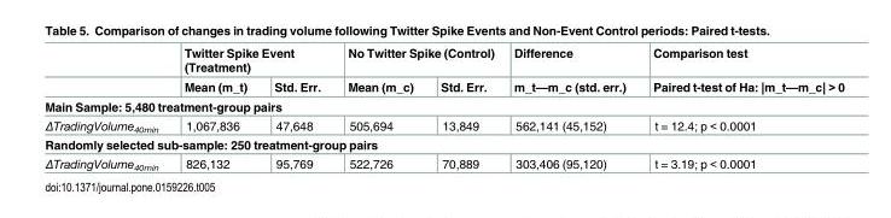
<table><thead><tr><td rowspan="2"></td><td colspan="2">Twitter Spike Event (Treatment)</td><td colspan="2">No Twitter Spike (Control)</td><td rowspan="2">Difference m_t—m_c (std. err.)</td><td rowspan="2">Comparison test Paired t-test of Ha: |m_t—m_c| &gt; 0</td></tr><tr><td>Mean (m_t)</td><td>Std. Err.</td><td>Mean (m_c)</td><td>Std. Err.</td></tr></thead><tbody><tr><td colspan="7">Main Sample: 5,480 treatment-group pairs</td></tr><tr><td>ΔTradingVolume<sub>40min</sub></td><td>1,067,836</td><td>47,648</td><td>505,694</td><td>13,849</td><td>562,141 (45,152)</td><td>t = 12.4; p &lt; 0.0001</td></tr><tr><td colspan="7">Randomly selected sub-sample: 250 treatment-group pairs</td></tr><tr><td>ΔTradingVolume<sub>40min</sub></td><td>826,132</td><td>95,769</td><td>522,726</td><td>70,889</td><td>303,406 (95,120)</td><td>t = 3.19; p &lt; 0.0001</td></tr></tbody></table>